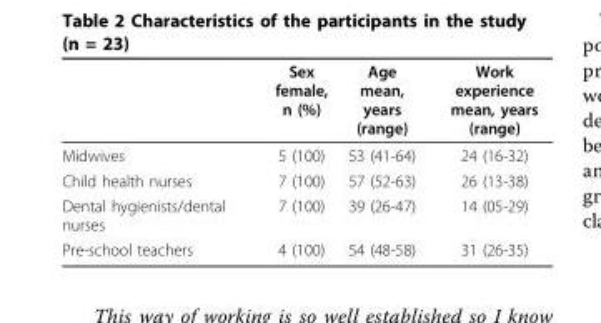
<table><thead><tr><td></td><td>Sex female, n (%)</td><td>Age mean, years (range)</td><td>Work experience mean, years (range)</td></tr></thead><tbody><tr><td>Midwives</td><td>5 (100)</td><td>53 (41-64)</td><td>24 (16-32)</td></tr><tr><td>Child health nurses</td><td>7 (100)</td><td>57 (52-63)</td><td>26 (13-38)</td></tr><tr><td>Dental hygienists/dental nurses</td><td>7 (100)</td><td>39 (26-47)</td><td>14 (05-29)</td></tr><tr><td>Pre-school teachers</td><td>4 (100)</td><td>54 (48-58)</td><td>31 (26-35)</td></tr></tbody></table>